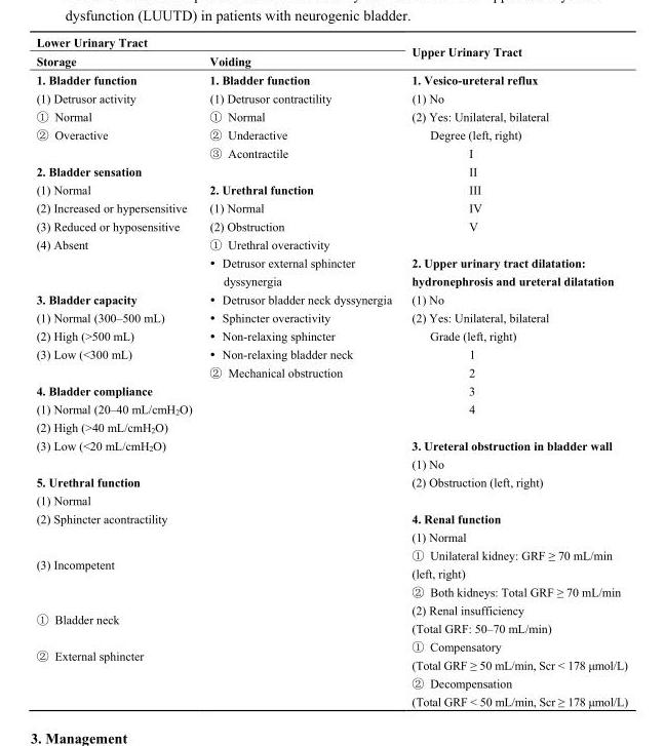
<table><thead><tr><td colspan="2">Lower Urinary Tract</td><td rowspan="2">Upper Urinary Tract</td></tr><tr><td>Storage</td><td>Voiding</td></tr></thead><tbody><tr><td>1. Bladder function</td><td>1. Bladder function</td><td>1. Vesico-ureteral reflux</td></tr><tr><td>(1) Detrusor activity</td><td>(1) Detrusor contractility</td><td>(1) No</td></tr><tr><td>① Normal</td><td>① Normal</td><td>(2) Yes: Unilateral, bilateral</td></tr><tr><td rowspan="2">② Overactive</td><td>② Underactive</td><td>Degree (left, right)</td></tr><tr><td>③ Acontractile</td><td>I</td></tr><tr><td>2. Bladder sensation</td><td></td><td>II</td></tr><tr><td>(1) Normal</td><td>2. Urethral function</td><td>III</td></tr><tr><td>(2) Increased or hypersensitive</td><td>(1) Normal</td><td>IV</td></tr><tr><td>(3) Reduced or hyposensitive</td><td>(2) Obstruction</td><td>V</td></tr><tr><td rowspan="2">(4) Absent</td><td>① Urethral overactivity</td><td></td></tr><tr><td> Detrusor external sphincter dyssynergia</td><td>2. Upper urinary tract dilatation: hydronephrosis and ureteral dilatation</td></tr><tr><td>3. Bladder capacity</td><td> Detrusor bladder neck dyssynergia</td><td>(1) No</td></tr><tr><td>(1) Normal (300–500 mL)</td><td> Sphincter overactivity</td><td>(2) Yes: Unilateral, bilateral</td></tr><tr><td>(2) High (&gt;500 mL)</td><td> Non-relaxing sphincter</td><td>Grade (left, right)</td></tr><tr><td rowspan="2">(3) Low (&lt;300 mL)</td><td> Non-relaxing bladder neck</td><td>1</td></tr><tr><td>② Mechanical obstruction</td><td>2</td></tr><tr><td>4. Bladder compliance</td><td></td><td>3</td></tr><tr><td>(1) Normal (20–40 mL/cmH<sub>2</sub>O)</td><td></td><td>4</td></tr><tr><td colspan="3">(2) High (&gt;40 mL/cmH<sub>2</sub>O)</td></tr><tr><td rowspan="2">(3) Low (&lt;20 mL/cmH<sub>2</sub>O)</td><td></td><td>3. Ureteral obstruction in bladder wall</td></tr><tr><td></td><td>(1) No</td></tr><tr><td>5. Urethral function</td><td></td><td>(2) Obstruction (left, right)</td></tr><tr><td colspan="3">(1) Normal</td></tr><tr><td>(2) Sphincter acontractility</td><td></td><td>4. Renal function</td></tr><tr><td rowspan="3">(3) Incompetent</td><td rowspan="3"></td><td>(1) Normal</td></tr><tr><td>① Unilateral kidney: GRF ≥ 70 mL/min (left, right)</td></tr><tr><td>② Both kidneys: Total GRF ≥ 70 mL/min</td></tr><tr><td>① Bladder neck</td><td></td><td>(2) Renal insufficiency (Total GRF: 50–70 mL/min)</td></tr><tr><td rowspan="2">② External sphincter</td><td></td><td>① Compensatory (Total GRF ≥ 50 mL/min, Scr &lt; 178 μmol/L)</td></tr><tr><td></td><td>② Decompensation (Total GRF &lt; 50 mL/min, Scr ≥ 178 μmol/L)</td></tr></tbody></table>